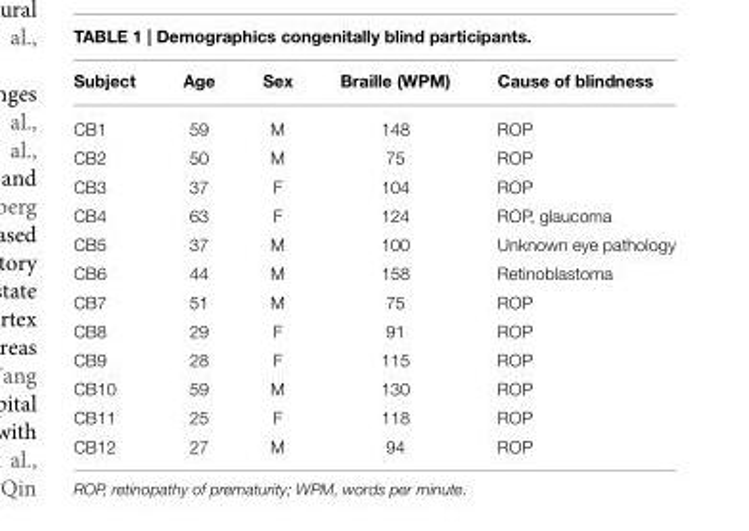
<table><thead><tr><td>Subject</td><td>Age</td><td>Sex</td><td>Braille (WPM)</td><td>Cause of blindness</td></tr></thead><tbody><tr><td>CB1</td><td>59</td><td>M</td><td>148</td><td>ROP</td></tr><tr><td>CB2</td><td>50</td><td>M</td><td>75</td><td>ROP</td></tr><tr><td>CB3</td><td>37</td><td>F</td><td>104</td><td>ROP</td></tr><tr><td>CB4</td><td>63</td><td>F</td><td>124</td><td>ROP, glaucoma</td></tr><tr><td>CB5</td><td>37</td><td>M</td><td>100</td><td>Unknown eye pathology</td></tr><tr><td>CB6</td><td>44</td><td>M</td><td>158</td><td>Retinoblastoma</td></tr><tr><td>CB7</td><td>51</td><td>M</td><td>75</td><td>ROP</td></tr><tr><td>CB8</td><td>29</td><td>F</td><td>91</td><td>ROP</td></tr><tr><td>CB9</td><td>28</td><td>F</td><td>115</td><td>ROP</td></tr><tr><td>CB10</td><td>59</td><td>M</td><td>130</td><td>ROP</td></tr><tr><td>CB11</td><td>25</td><td>F</td><td>118</td><td>ROP</td></tr><tr><td>CB12</td><td>27</td><td>M</td><td>94</td><td>ROP</td></tr></tbody></table>